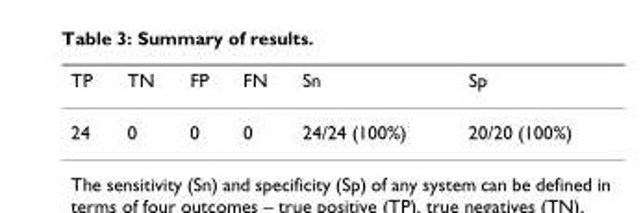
<table><thead><tr><td>TP</td><td>TN</td><td>FP</td><td>FN</td><td>Sn</td><td>Sp</td></tr></thead><tbody><tr><td>24</td><td>0</td><td>0</td><td>0</td><td>24/24 (100%)</td><td>20/20 (100%)</td></tr></tbody></table>